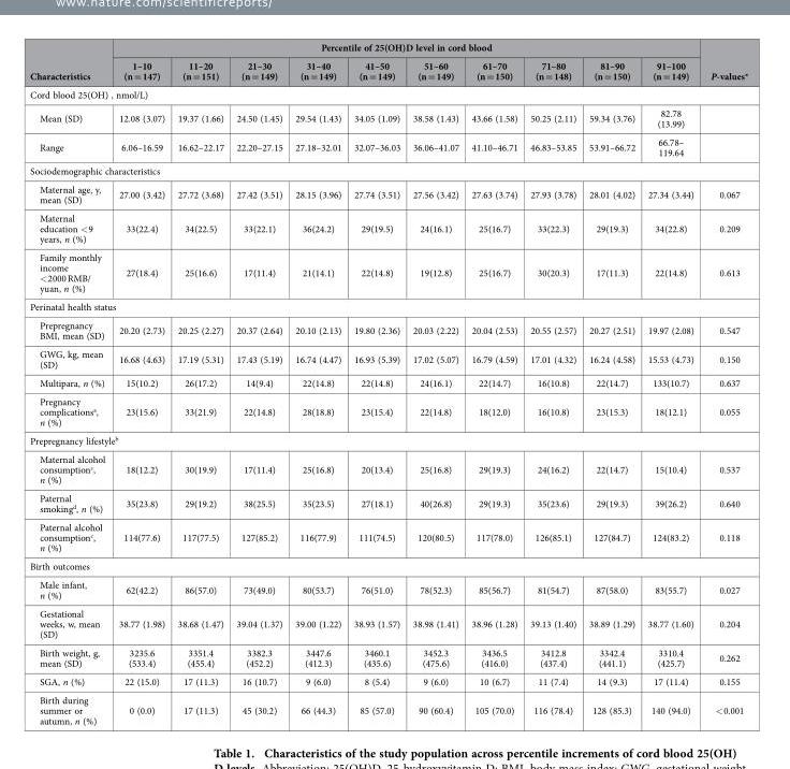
<table><thead><tr><td rowspan="2">Characteristics</td><td colspan="10">Percentile of 25(OH)D level in cord blood</td><td rowspan="2">P-values*</td></tr><tr><td>1–10 (n = 147)</td><td>11–20 (n = 151)</td><td>21–30 (n = 149)</td><td>31–40 (n = 149)</td><td>41–50 (n = 149)</td><td>51–60 (n = 149)</td><td>61–70 (n = 150)</td><td>71–80 (n = 148)</td><td>81–90 (n = 150)</td><td>91–100 (n = 149)</td></tr></thead><tbody><tr><td colspan="12">Cord blood 25(OH) , nmol/L)</td></tr><tr><td>Mean (SD)</td><td>12.08 (3.07)</td><td>19.37 (1.66)</td><td>24.50 (1.45)</td><td>29.54 (1.43)</td><td>34.05 (1.09)</td><td>38.58 (1.43)</td><td>43.66 (1.58)</td><td>50.25 (2.11)</td><td>59.34 (3.76)</td><td>82.78 (13.99)</td><td></td></tr><tr><td>Range</td><td>6.06–16.59</td><td>16.62–22.17</td><td>22.20–27.15</td><td>27.18–32.01</td><td>32.07–36.03</td><td>36.06–41.07</td><td>41.10–46.71</td><td>46.83–53.85</td><td>53.91–66.72</td><td>66.78– 119.64</td><td></td></tr><tr><td colspan="12">Sociodemographic characteristics</td></tr><tr><td>Maternal age, y, mean (SD)</td><td>27.00 (3.42)</td><td>27.72 (3.68)</td><td>27.42 (3.51)</td><td>28.15 (3.96)</td><td>27.74 (3.51)</td><td>27.56 (3.42)</td><td>27.63 (3.74)</td><td>27.93 (3.78)</td><td>28.01 (4.02)</td><td>27.34 (3.44)</td><td>0.067</td></tr><tr><td>Maternal education &lt; 9 years, n (%)</td><td>33(22.4)</td><td>34(22.5)</td><td>33(22.1)</td><td>36(24.2)</td><td>29(19.5)</td><td>24(16.1)</td><td>25(16.7)</td><td>33(22.3)</td><td>29(19.3)</td><td>34(22.8)</td><td>0.209</td></tr><tr><td>Family monthly income &lt; 2000 RMB/ yuan, n (%)</td><td>27(18.4)</td><td>25(16.6)</td><td>17(11.4)</td><td>21(14.1)</td><td>22(14.8)</td><td>19(12.8)</td><td>25(16.7)</td><td>30(20.3)</td><td>17(11.3)</td><td>22(14.8)</td><td>0.613</td></tr><tr><td colspan="12">Perinatal health status</td></tr><tr><td>Prepregnancy BMI, mean (SD)</td><td>20.20 (2.73)</td><td>20.25 (2.27)</td><td>20.37 (2.64)</td><td>20.10 (2.13)</td><td>19.80 (2.36)</td><td>20.03 (2.22)</td><td>20.04 (2.53)</td><td>20.55 (2.57)</td><td>20.27 (2.51)</td><td>19.97 (2.08)</td><td>0.547</td></tr><tr><td>GWG, kg, mean (SD)</td><td>16.68 (4.63)</td><td>17.19 (5.31)</td><td>17.43 (5.19)</td><td>16.74 (4.47)</td><td>16.93 (5.39)</td><td>17.02 (5.07)</td><td>16.79 (4.59)</td><td>17.01 (4.32)</td><td>16.24 (4.58)</td><td>15.53 (4.73)</td><td>0.150</td></tr><tr><td>Multipara, n (%)</td><td>15(10.2)</td><td>26(17.2)</td><td>14(9.4)</td><td>22(14.8)</td><td>22(14.8)</td><td>24(16.1)</td><td>22(14.7)</td><td>16(10.8)</td><td>22(14.7)</td><td>133(10.7)</td><td>0.637</td></tr><tr><td>Pregnancy complications<sup>a</sup>, n (%)</td><td>23(15.6)</td><td>33(21.9)</td><td>22(14.8)</td><td>28(18.8)</td><td>23(15.4)</td><td>22(14.8)</td><td>18(12.0)</td><td>16(10.8)</td><td>23(15.3)</td><td>18(12.1)</td><td>0.055</td></tr><tr><td colspan="12">Prepregnancy lifestyle<sup>b</sup></td></tr><tr><td>Maternal alcohol consumption<sup>c</sup>, n (%)</td><td>18(12.2)</td><td>30(19.9)</td><td>17(11.4)</td><td>25(16.8)</td><td>20(13.4)</td><td>25(16.8)</td><td>29(19.3)</td><td>24(16.2)</td><td>22(14.7)</td><td>15(10.4)</td><td>0.537</td></tr><tr><td>Paternal smoking<sup>d</sup>, n (%)</td><td>35(23.8)</td><td>29(19.2)</td><td>38(25.5)</td><td>35(23.5)</td><td>27(18.1)</td><td>40(26.8)</td><td>29(19.3)</td><td>35(23.6)</td><td>29(19.3)</td><td>39(26.2)</td><td>0.640</td></tr><tr><td>Paternal alcohol consumption<sup>c</sup>, n (%)</td><td>114(77.6)</td><td>117(77.5)</td><td>127(85.2)</td><td>116(77.9)</td><td>111(74.5)</td><td>120(80.5)</td><td>117(78.0)</td><td>126(85.1)</td><td>127(84.7)</td><td>124(83.2)</td><td>0.118</td></tr><tr><td colspan="12">Birth outcomes</td></tr><tr><td>Male infant, n (%)</td><td>62(42.2)</td><td>86(57.0)</td><td>73(49.0)</td><td>80(53.7)</td><td>76(51.0)</td><td>78(52.3)</td><td>85(56.7)</td><td>81(54.7)</td><td>87(58.0)</td><td>83(55.7)</td><td>0.027</td></tr><tr><td>Gestational weeks, w, mean (SD)</td><td>38.77 (1.98)</td><td>38.68 (1.47)</td><td>39.04 (1.37)</td><td>39.00 (1.22)</td><td>38.93 (1.57)</td><td>38.98 (1.41)</td><td>38.96 (1.28)</td><td>39.13 (1.40)</td><td>38.89 (1.29)</td><td>38.77 (1.60)</td><td>0.204</td></tr><tr><td>Birth weight, g, mean (SD)</td><td>3235.6 (533.4)</td><td>3351.4 (455.4)</td><td>3382.3 (452.2)</td><td>3447.6 (412.3)</td><td>3460.1 (435.6)</td><td>3452.3 (475.6)</td><td>3436.5 (416.0)</td><td>3412.8 (437.4)</td><td>3342.4 (441.1)</td><td>3310.4 (425.7)</td><td>0.262</td></tr><tr><td>SGA, n (%)</td><td>22 (15.0)</td><td>17 (11.3)</td><td>16 (10.7)</td><td>9 (6.0)</td><td>8 (5.4)</td><td>9 (6.0)</td><td>10 (6.7)</td><td>11 (7.4)</td><td>14 (9.3)</td><td>17 (11.4)</td><td>0.155</td></tr><tr><td>Birth during summer or autumn, n (%)</td><td>0 (0.0)</td><td>17 (11.3)</td><td>45 (30.2)</td><td>66 (44.3)</td><td>85 (57.0)</td><td>90 (60.4)</td><td>105 (70.0)</td><td>116 (78.4)</td><td>128 (85.3)</td><td>140 (94.0)</td><td>&lt; 0.001</td></tr></tbody></table>